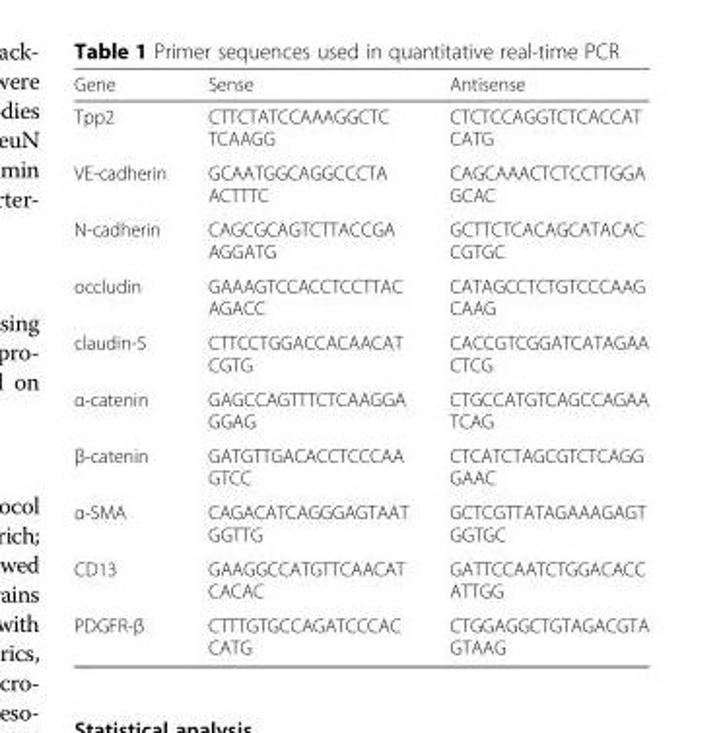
<table><thead><tr><td>Gene</td><td>Sense</td><td>Antisense</td></tr></thead><tbody><tr><td>Tpp2</td><td>CTTCTATCCAAAGGCTC TCAAGG</td><td>CTCTCCAGGTCTCACCAT CATG</td></tr><tr><td>VE-cadherin</td><td>GCAATGGCAGGCCCTA ACTTTC</td><td>CAGCAAACTCTCCTTGGA GCAC</td></tr><tr><td>N-cadherin</td><td>CAGCGCAGTCTTACCGA AGGATG</td><td>GCTTCTCACAGCATACAC CGTGC</td></tr><tr><td>occludin</td><td>GAAAGTCCACCTCCTTAC AGACC</td><td>CATAGCCTCTGTCCCAAG CAAG</td></tr><tr><td>claudin-5</td><td>CTTCCTGGACCACAACAT CGTG</td><td>CACCGTCGGATCATAGAA CTCG</td></tr><tr><td>α-catenin</td><td>GAGCCAGTTTCTCAAGGA GGAG</td><td>CTGCCATGTCAGCCAGAA TCAG</td></tr><tr><td>β-catenin</td><td>GATGTTGACACCTCCCAA GTCC</td><td>CTCATCTAGCGTCTCAGG GAAC</td></tr><tr><td>α-SMA</td><td>CAGACATCAGGGAGTAAT GGTTG</td><td>GCTCGTTATAGAAAGAGT GGTGC</td></tr><tr><td>CD13</td><td>GAAGGCCATGTTCAACAT CACAC</td><td>GATTCCAATCTGGACACC ATTGG</td></tr><tr><td>PDGFR-β</td><td>CTTTGTGCCAGATCCCAC CATG</td><td>CTGGAGGCTGTAGACGTA GTAAG</td></tr></tbody></table>